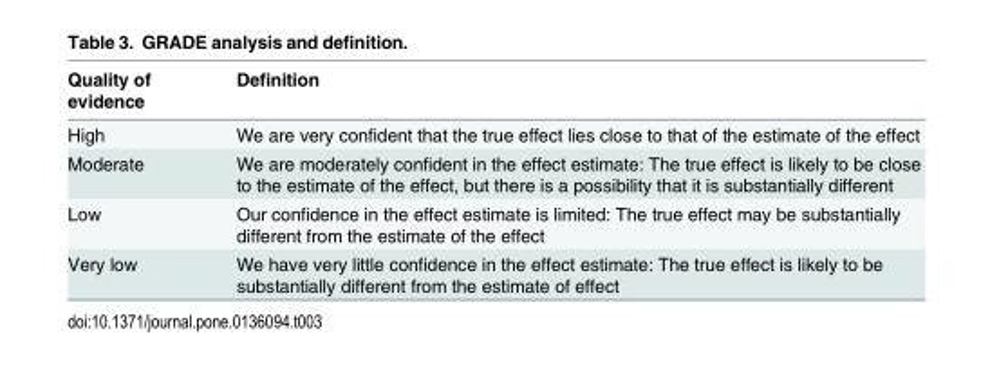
<table><thead><tr><td>Quality of evidence</td><td>Definition</td></tr></thead><tbody><tr><td>High</td><td>We are very confident that the true effect lies close to that of the estimate of the effect</td></tr><tr><td>Moderate</td><td>We are moderately confident in the effect estimate: The true effect is likely to be close to the estimate of the effect, but there is a possibility that it is substantially different</td></tr><tr><td>Low</td><td>Our confidence in the effect estimate is limited: The true effect may be substantially different from the estimate of the effect</td></tr><tr><td>Very low</td><td>We have very little confidence in the effect estimate: The true effect is likely to be substantially different from the estimate of effect</td></tr></tbody></table>